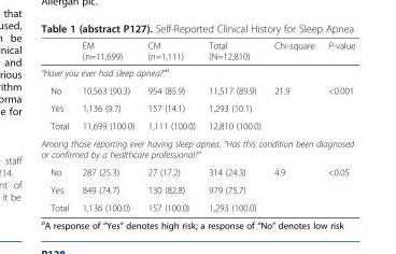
<table><thead><tr><td></td><td>EM (n=11,699)</td><td>CM (n=1,111)</td><td>Total (N=12,810)</td><td>Chi-square</td><td>P-value</td></tr></thead><tbody><tr><td colspan="6">“Have you ever had sleep apnea?”<sup>a</sup></td></tr><tr><td>No</td><td>10,563 (90.3)</td><td>954 (85.9)</td><td>11,517 (89.9)</td><td>21.9</td><td>&lt;0.001</td></tr><tr><td>Yes</td><td>1,136 (9.7)</td><td>157 (14.1)</td><td>1,293 (10.1)</td><td></td><td></td></tr><tr><td>Total</td><td>11,699 (100.0)</td><td>1,111 (100.0)</td><td>12,810 (100.0)</td><td></td><td></td></tr><tr><td colspan="6">Among those reporting ever having sleep apnea, “Has this condition been diagnosed or confirmed by a healthcare professional?”</td></tr><tr><td>No</td><td>287 (25.3)</td><td>27 (17.2)</td><td>314 (24.3)</td><td>4.9</td><td>&lt;0.05</td></tr><tr><td>Yes</td><td>849 (74.7)</td><td>130 (82.8)</td><td>979 (75.7)</td><td></td><td></td></tr><tr><td>Total</td><td>1,136 (100.0)</td><td>157 (100.0)</td><td>1,293 (100.0)</td><td></td><td></td></tr></tbody></table>